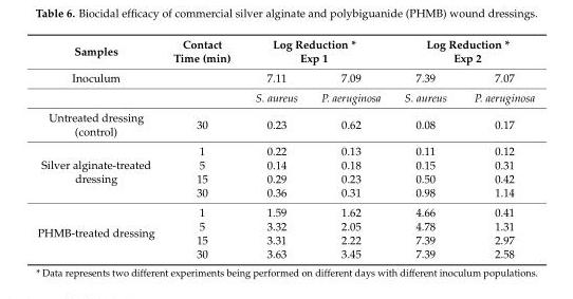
<table><thead><tr><td rowspan="2">Samples Inoculum</td><td rowspan="2">Contact Time (min)</td><td colspan="2">Log Reduction * Exp 1</td><td colspan="2">Log Reduction * Exp 2</td></tr><tr><td>7.11</td><td>7.09</td><td>7.39</td><td>7.07</td></tr></thead><tbody><tr><td></td><td></td><td>S. aureus</td><td>P. aeruginosa</td><td>S. aureus</td><td>P. aeruginosa</td></tr><tr><td>Untreated dressing (control)</td><td>30</td><td>0.23</td><td>0.62</td><td>0.08</td><td>0.17</td></tr><tr><td rowspan="4">Silver alginate-treated dressing</td><td>1</td><td>0.22</td><td>0.13</td><td>0.11</td><td>0.12</td></tr><tr><td>5</td><td>0.14</td><td>0.18</td><td>0.15</td><td>0.31</td></tr><tr><td>15</td><td>0.29</td><td>0.23</td><td>0.50</td><td>0.42</td></tr><tr><td>30</td><td>0.36</td><td>0.31</td><td>0.98</td><td>1.14</td></tr><tr><td rowspan="4">PHMB-treated dressing</td><td>1</td><td>1.59</td><td>1.62</td><td>4.66</td><td>0.41</td></tr><tr><td>5</td><td>3.32</td><td>2.05</td><td>4.78</td><td>1.31</td></tr><tr><td>15</td><td>3.31</td><td>2.22</td><td>7.39</td><td>2.97</td></tr><tr><td>30</td><td>3.63</td><td>3.45</td><td>7.39</td><td>2.58</td></tr></tbody></table>